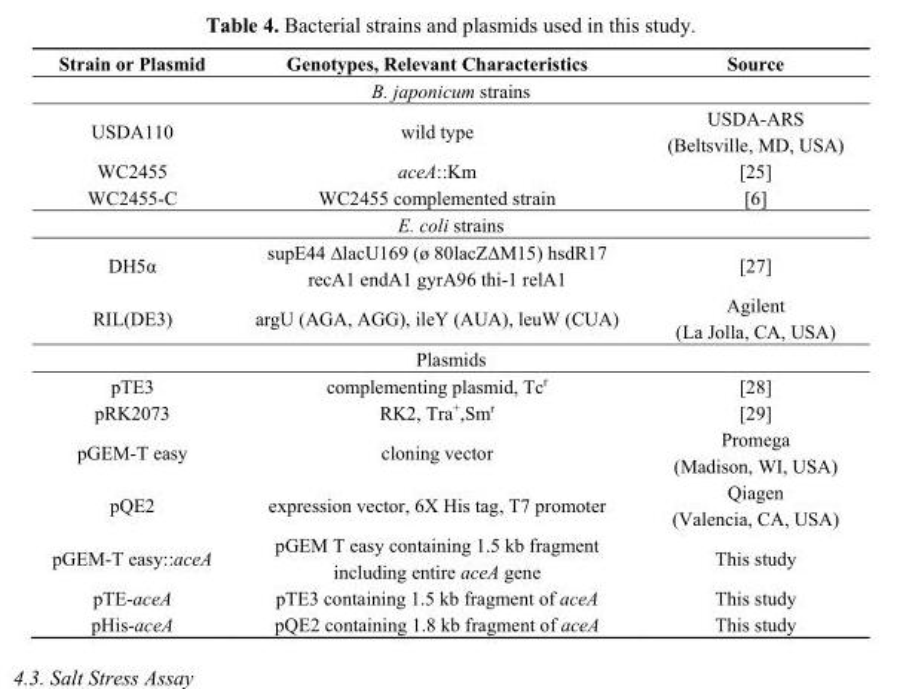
<table><thead><tr><td>Strain or Plasmid</td><td>Genotypes, Relevant Characteristics</td><td>Source</td></tr></thead><tbody><tr><td colspan="3">B. japonicum strains</td></tr><tr><td>USDA110</td><td>wild type</td><td>USDA-ARS (Beltsville, MD, USA)</td></tr><tr><td>WC2455</td><td>aceA::Km</td><td>[25]</td></tr><tr><td>WC2455-C</td><td>WC2455 complemented strain</td><td>[6]</td></tr><tr><td colspan="3">E. coli strains</td></tr><tr><td>DH5α</td><td>supE44 ∆lacU169 (ø 80lacZ∆M15) hsdR17 recA1 endA1 gyrA96 thi-1 relA1</td><td>[27]</td></tr><tr><td>RIL(DE3)</td><td>argU (AGA, AGG), ileY (AUA), leuW (CUA)</td><td>Agilent (La Jolla, CA, USA)</td></tr><tr><td colspan="3">Plasmids</td></tr><tr><td>pTE3</td><td>complementing plasmid, Tc<sup>r</sup></td><td>[28]</td></tr><tr><td>pRK2073</td><td>RK2, Tra<sup>+</sup>,Sm<sup>r</sup></td><td>[29]</td></tr><tr><td>pGEM-T easy</td><td>cloning vector</td><td>Promega (Madison, WI, USA)</td></tr><tr><td>pQE2</td><td>expression vector, 6X His tag, T7 promoter</td><td>Qiagen (Valencia, CA, USA)</td></tr><tr><td>pGEM-T easy::aceA</td><td>pGEM T easy containing 1.5 kb fragment including entire aceA gene</td><td>This study</td></tr><tr><td>pTE-aceA</td><td>pTE3 containing 1.5 kb fragment of aceA</td><td>This study</td></tr><tr><td>pHis-aceA</td><td>pQE2 containing 1.8 kb fragment of aceA</td><td>This study</td></tr></tbody></table>